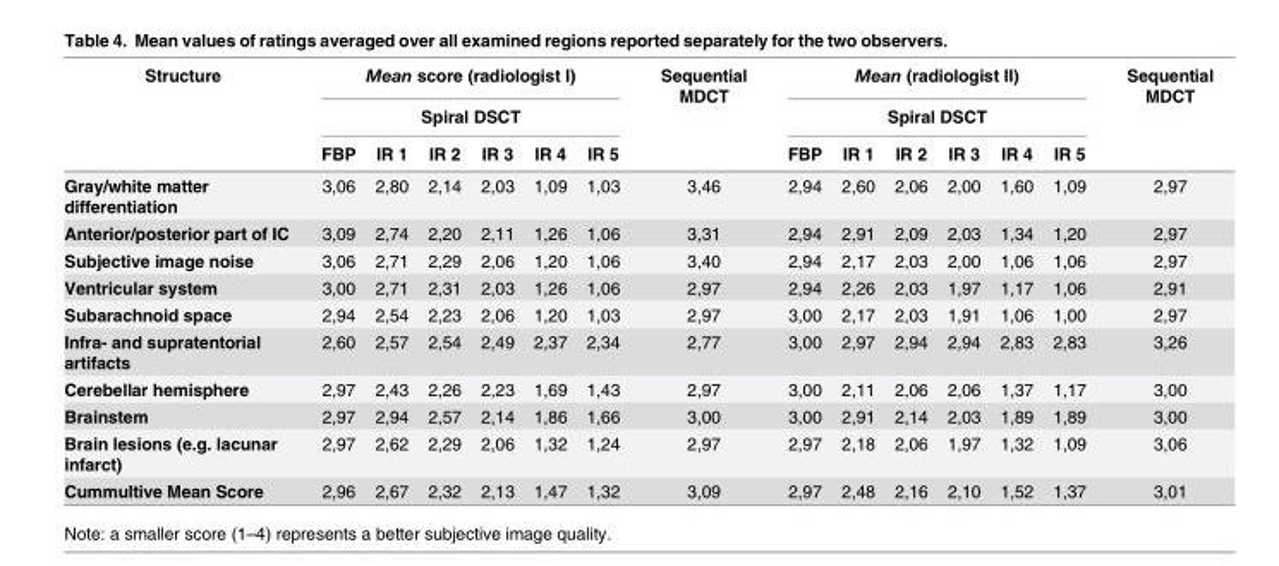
<table><thead><tr><td rowspan="3">Structure</td><td rowspan="2" colspan="6">Mean score (radiologist I) Spiral DSCT</td><td rowspan="3">Sequential MDCT</td><td rowspan="2" colspan="6">Mean (radiologist II) Spiral DSCT</td><td rowspan="3">Sequential MDCT</td></tr><tr></tr><tr><td>FBP</td><td>IR 1</td><td>IR 2</td><td>IR 3</td><td>IR 4</td><td>IR 5</td><td>FBP</td><td>IR 1</td><td>IR 2</td><td>IR 3</td><td>IR 4</td><td>IR 5</td></tr></thead><tbody><tr><td>Gray/white matter differentiation</td><td>3,06</td><td>2,80</td><td>2,14</td><td>2,03</td><td>1,09</td><td>1,03</td><td>3,46</td><td>2,94</td><td>2,60</td><td>2,06</td><td>2,00</td><td>1,60</td><td>1,09</td><td>2,97</td></tr><tr><td>Anterior/posterior part of IC</td><td>3,09</td><td>2,74</td><td>2,20</td><td>2,11</td><td>1,26</td><td>1,06</td><td>3,31</td><td>2,94</td><td>2,91</td><td>2,09</td><td>2,03</td><td>1,34</td><td>1,20</td><td>2,97</td></tr><tr><td>Subjective image noise</td><td>3,06</td><td>2,71</td><td>2,29</td><td>2,06</td><td>1,20</td><td>1,06</td><td>3,40</td><td>2,94</td><td>2,17</td><td>2,03</td><td>2,00</td><td>1,06</td><td>1,06</td><td>2,97</td></tr><tr><td>Ventricular system</td><td>3,00</td><td>2,71</td><td>2,31</td><td>2,03</td><td>1,26</td><td>1,06</td><td>2,97</td><td>2,94</td><td>2,26</td><td>2,03</td><td>1,97</td><td>1,17</td><td>1,06</td><td>2,91</td></tr><tr><td>Subarachnoid space</td><td>2,94</td><td>2,54</td><td>2,23</td><td>2,06</td><td>1,20</td><td>1,03</td><td>2,97</td><td>3,00</td><td>2,17</td><td>2,03</td><td>1,91</td><td>1,06</td><td>1,00</td><td>2,97</td></tr><tr><td>Infra- and supratentorial artifacts</td><td>2,60</td><td>2,57</td><td>2,54</td><td>2,49</td><td>2,37</td><td>2,34</td><td>2,77</td><td>3,00</td><td>2,97</td><td>2,94</td><td>2,94</td><td>2,83</td><td>2,83</td><td>3,26</td></tr><tr><td>Cerebellar hemisphere</td><td>2,97</td><td>2,43</td><td>2,26</td><td>2,23</td><td>1,69</td><td>1,43</td><td>2,97</td><td>3,00</td><td>2,11</td><td>2,06</td><td>2,06</td><td>1,37</td><td>1,17</td><td>3,00</td></tr><tr><td>Brainstem</td><td>2,97</td><td>2,94</td><td>2,57</td><td>2,14</td><td>1,86</td><td>1,66</td><td>3,00</td><td>3,00</td><td>2,91</td><td>2,14</td><td>2,03</td><td>1,89</td><td>1,89</td><td>3,00</td></tr><tr><td>Brain lesions (e.g. lacunar infarct)</td><td>2,97</td><td>2,62</td><td>2,29</td><td>2,06</td><td>1,32</td><td>1,24</td><td>2,97</td><td>2,97</td><td>2,18</td><td>2,06</td><td>1,97</td><td>1,32</td><td>1,09</td><td>3,06</td></tr><tr><td>Cummultive Mean Score</td><td>2,96</td><td>2,67</td><td>2,32</td><td>2,13</td><td>1,47</td><td>1,32</td><td>3,09</td><td>2,97</td><td>2,48</td><td>2,16</td><td>2,10</td><td>1,52</td><td>1,37</td><td>3,01</td></tr></tbody></table>